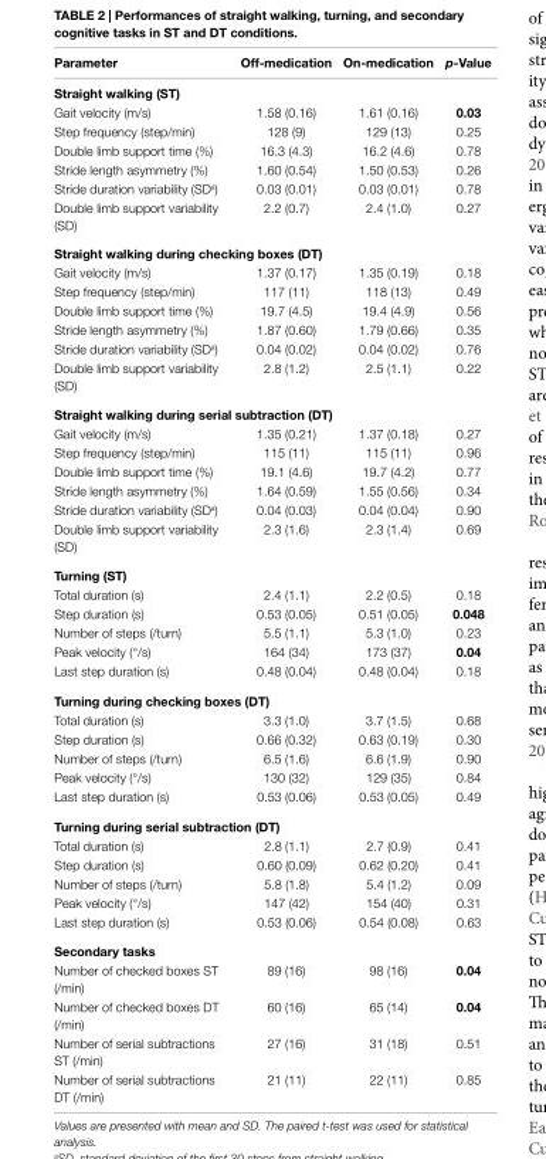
<table><thead><tr><td>Parameter</td><td>Off-medication</td><td>On-medication</td><td>p-Value</td></tr></thead><tbody><tr><td colspan="4">straight walking (sT)</td></tr><tr><td>Gait velocity (m/s)</td><td>1.58 (0.16)</td><td>1.61 (0.16)</td><td>0.03</td></tr><tr><td>Step frequency (step/min)</td><td>128 (9)</td><td>129 (13)</td><td>0.25</td></tr><tr><td>Double limb support time (%)</td><td>16.3 (4.3)</td><td>16.2 (4.6)</td><td>0.78</td></tr><tr><td>Stride length asymmetry (%)</td><td>1.60 (0.54)</td><td>1.50 (0.53)</td><td>0.26</td></tr><tr><td>Stride duration variability (SD<sup>a</sup>)</td><td>0.03 (0.01)</td><td>0.03 (0.01)</td><td>0.78</td></tr><tr><td>Double limb support variability (SD)</td><td>2.2 (0.7)</td><td>2.4 (1.0)</td><td>0.27</td></tr><tr><td colspan="4">straight walking during checking boxes (DT)</td></tr><tr><td>Gait velocity (m/s)</td><td>1.37 (0.17)</td><td>1.35 (0.19)</td><td>0.18</td></tr><tr><td>Step frequency (step/min)</td><td>117 (11)</td><td>118 (13)</td><td>0.49</td></tr><tr><td>Double limb support time (%)</td><td>19.7 (4.5)</td><td>19.4 (4.9)</td><td>0.56</td></tr><tr><td>Stride length asymmetry (%)</td><td>1.87 (0.60)</td><td>1.79 (0.66)</td><td>0.35</td></tr><tr><td>Stride duration variability (SD<sup>a</sup>)</td><td>0.04 (0.02)</td><td>0.04 (0.02)</td><td>0.76</td></tr><tr><td>Double limb support variability (SD)</td><td>2.8 (1.2)</td><td>2.5 (1.1)</td><td>0.22</td></tr><tr><td colspan="4">straight walking during serial subtraction (DT)</td></tr><tr><td>Gait velocity (m/s)</td><td>1.35 (0.21)</td><td>1.37 (0.18)</td><td>0.27</td></tr><tr><td>Step frequency (step/min)</td><td>115 (11)</td><td>115 (11)</td><td>0.96</td></tr><tr><td>Double limb support time (%)</td><td>19.1 (4.6)</td><td>19.7 (4.2)</td><td>0.77</td></tr><tr><td>Stride length asymmetry (%)</td><td>1.64 (0.59)</td><td>1.55 (0.56)</td><td>0.34</td></tr><tr><td>Stride duration variability (SD<sup>a</sup>)</td><td>0.04 (0.03)</td><td>0.04 (0.04)</td><td>0.90</td></tr><tr><td>Double limb support variability (SD)</td><td>2.3 (1.6)</td><td>2.3 (1.4)</td><td>0.69</td></tr><tr><td colspan="4">Turning (sT)</td></tr><tr><td>Total duration (s)</td><td>2.4 (1.1)</td><td>2.2 (0.5)</td><td>0.18</td></tr><tr><td>Step duration (s)</td><td>0.53 (0.05)</td><td>0.51 (0.05)</td><td>0.048</td></tr><tr><td>Number of steps (/turn)</td><td>5.5 (1.1)</td><td>5.3 (1.0)</td><td>0.23</td></tr><tr><td>Peak velocity (°/s)</td><td>164 (34)</td><td>173 (37)</td><td>0.04</td></tr><tr><td>Last step duration (s)</td><td>0.48 (0.04)</td><td>0.48 (0.04)</td><td>0.18</td></tr><tr><td colspan="4">Turning during checking boxes (DT)</td></tr><tr><td>Total duration (s)</td><td>3.3 (1.0)</td><td>3.7 (1.5)</td><td>0.68</td></tr><tr><td>Step duration (s)</td><td>0.66 (0.32)</td><td>0.63 (0.19)</td><td>0.30</td></tr><tr><td>Number of steps (/turn)</td><td>6.5 (1.6)</td><td>6.6 (1.9)</td><td>0.90</td></tr><tr><td>Peak velocity (°/s)</td><td>130 (32)</td><td>129 (35)</td><td>0.84</td></tr><tr><td>Last step duration (s)</td><td>0.53 (0.06)</td><td>0.53 (0.05)</td><td>0.49</td></tr><tr><td colspan="4">Turning during serial subtraction (DT)</td></tr><tr><td>Total duration (s)</td><td>2.8 (1.1)</td><td>2.7 (0.9)</td><td>0.41</td></tr><tr><td>Step duration (s)</td><td>0.60 (0.09)</td><td>0.62 (0.20)</td><td>0.41</td></tr><tr><td>Number of steps (/turn)</td><td>5.8 (1.8)</td><td>5.4 (1.2)</td><td>0.09</td></tr><tr><td>Peak velocity (°/s)</td><td>147 (42)</td><td>154 (40)</td><td>0.31</td></tr><tr><td>Last step duration (s)</td><td>0.53 (0.06)</td><td>0.54 (0.08)</td><td>0.63</td></tr><tr><td colspan="4">secondary tasks</td></tr><tr><td>Number of checked boxes ST (/min)</td><td>89 (16)</td><td>98 (16)</td><td>0.04</td></tr><tr><td>Number of checked boxes DT (/min)</td><td>60 (16)</td><td>65 (14)</td><td>0.04</td></tr><tr><td>Number of serial subtractions ST (/min)</td><td>27 (16)</td><td>31 (18)</td><td>0.51</td></tr><tr><td>Number of serial subtractions DT (/min)</td><td>21 (11)</td><td>22 (11)</td><td>0.85</td></tr></tbody></table>